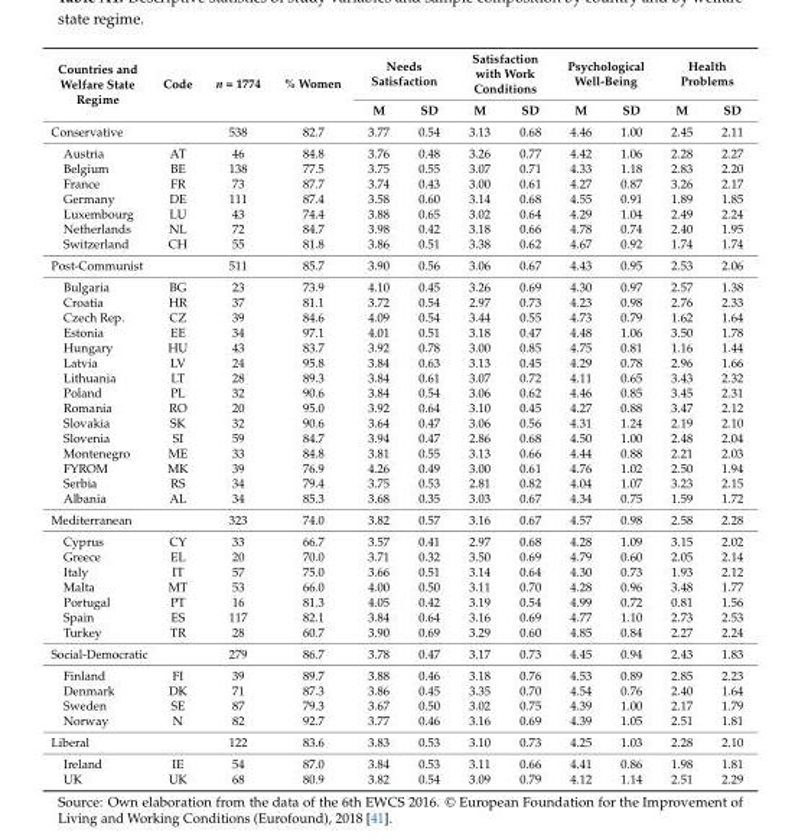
<table><thead><tr><td rowspan="2">Countries and Welfare State Regime</td><td rowspan="2">Code</td><td rowspan="2">n = 1774</td><td rowspan="2">% Women</td><td colspan="2">Needs Satisfaction</td><td colspan="2">Satisfaction with Work Conditions</td><td colspan="2">Psychological Well-Being</td><td colspan="2">Health Problems</td></tr><tr><td>M</td><td>SD</td><td>M</td><td>SD</td><td>M</td><td>SD</td><td>M</td><td>SD</td></tr></thead><tbody><tr><td>Conservative</td><td></td><td>538</td><td>82.7</td><td>3.77</td><td>0.54</td><td>3.13</td><td>0.68</td><td>4.46</td><td>1.00</td><td>2.45</td><td>2.11</td></tr><tr><td>Austria</td><td>AT</td><td>46</td><td>84.8</td><td>3.76</td><td>0.48</td><td>3.26</td><td>0.77</td><td>4.42</td><td>1.06</td><td>2.28</td><td>2.27</td></tr><tr><td>Belgium</td><td>BE</td><td>138</td><td>77.5</td><td>3.75</td><td>0.55</td><td>3.07</td><td>0.71</td><td>4.33</td><td>1.18</td><td>2.83</td><td>2.20</td></tr><tr><td>France</td><td>FR</td><td>73</td><td>87.7</td><td>3.74</td><td>0.43</td><td>3.00</td><td>0.61</td><td>4.27</td><td>0.87</td><td>3.26</td><td>2.17</td></tr><tr><td>Germany</td><td>DE</td><td>111</td><td>87.4</td><td>3.58</td><td>0.60</td><td>3.14</td><td>0.68</td><td>4.55</td><td>0.91</td><td>1.89</td><td>1.85</td></tr><tr><td>Luxembourg</td><td>LU</td><td>43</td><td>74.4</td><td>3.88</td><td>0.65</td><td>3.02</td><td>0.64</td><td>4.29</td><td>1.04</td><td>2.49</td><td>2.24</td></tr><tr><td>Netherlands</td><td>NL</td><td>72</td><td>84.7</td><td>3.98</td><td>0.42</td><td>3.18</td><td>0.66</td><td>4.78</td><td>0.74</td><td>2.40</td><td>1.95</td></tr><tr><td>Switzerland</td><td>CH</td><td>55</td><td>81.8</td><td>3.86</td><td>0.51</td><td>3.38</td><td>0.62</td><td>4.67</td><td>0.92</td><td>1.74</td><td>1.74</td></tr><tr><td>Post-Communist</td><td></td><td>511</td><td>85.7</td><td>3.90</td><td>0.56</td><td>3.06</td><td>0.67</td><td>4.43</td><td>0.95</td><td>2.53</td><td>2.06</td></tr><tr><td>Bulgaria</td><td>BG</td><td>23</td><td>73.9</td><td>4.10</td><td>0.45</td><td>3.26</td><td>0.69</td><td>4.30</td><td>0.97</td><td>2.57</td><td>1.38</td></tr><tr><td>Croatia</td><td>HR</td><td>37</td><td>81.1</td><td>3.72</td><td>0.54</td><td>2.97</td><td>0.73</td><td>4.23</td><td>0.98</td><td>2.76</td><td>2.33</td></tr><tr><td>Czech Rep.</td><td>CZ</td><td>39</td><td>84.6</td><td>4.09</td><td>0.54</td><td>3.44</td><td>0.55</td><td>4.73</td><td>0.79</td><td>1.62</td><td>1.64</td></tr><tr><td>Estonia</td><td>EE</td><td>34</td><td>97.1</td><td>4.01</td><td>0.51</td><td>3.18</td><td>0.47</td><td>4.48</td><td>1.06</td><td>3.50</td><td>1.78</td></tr><tr><td>Hungary</td><td>HU</td><td>43</td><td>83.7</td><td>3.92</td><td>0.78</td><td>3.00</td><td>0.85</td><td>4.75</td><td>0.81</td><td>1.16</td><td>1.44</td></tr><tr><td>Latvia</td><td>LV</td><td>24</td><td>95.8</td><td>3.84</td><td>0.63</td><td>3.13</td><td>0.45</td><td>4.29</td><td>0.78</td><td>2.96</td><td>1.66</td></tr><tr><td>Lithuania</td><td>LT</td><td>28</td><td>89.3</td><td>3.84</td><td>0.61</td><td>3.07</td><td>0.72</td><td>4.11</td><td>0.65</td><td>3.43</td><td>2.32</td></tr><tr><td>Poland</td><td>PL</td><td>32</td><td>90.6</td><td>3.84</td><td>0.54</td><td>3.06</td><td>0.62</td><td>4.46</td><td>0.85</td><td>3.45</td><td>2.31</td></tr><tr><td>Romania</td><td>RO</td><td>20</td><td>95.0</td><td>3.92</td><td>0.64</td><td>3.10</td><td>0.45</td><td>4.27</td><td>0.88</td><td>3.47</td><td>2.12</td></tr><tr><td>Slovakia</td><td>SK</td><td>32</td><td>90.6</td><td>3.64</td><td>0.47</td><td>3.06</td><td>0.56</td><td>4.31</td><td>1.24</td><td>2.19</td><td>2.10</td></tr><tr><td>Slovenia</td><td>SI</td><td>59</td><td>84.7</td><td>3.94</td><td>0.47</td><td>2.86</td><td>0.68</td><td>4.50</td><td>1.00</td><td>2.48</td><td>2.04</td></tr><tr><td>Montenegro</td><td>ME</td><td>33</td><td>84.8</td><td>3.81</td><td>0.55</td><td>3.13</td><td>0.66</td><td>4.44</td><td>0.88</td><td>2.21</td><td>2.03</td></tr><tr><td>FYROM</td><td>MK</td><td>39</td><td>76.9</td><td>4.26</td><td>0.49</td><td>3.00</td><td>0.61</td><td>4.76</td><td>1.02</td><td>2.50</td><td>1.94</td></tr><tr><td>Serbia</td><td>RS</td><td>34</td><td>79.4</td><td>3.75</td><td>0.53</td><td>2.81</td><td>0.82</td><td>4.04</td><td>1.07</td><td>3.23</td><td>2.15</td></tr><tr><td>Albania</td><td>AL</td><td>34</td><td>85.3</td><td>3.68</td><td>0.35</td><td>3.03</td><td>0.67</td><td>4.34</td><td>0.75</td><td>1.59</td><td>1.72</td></tr><tr><td>Mediterranean</td><td></td><td>323</td><td>74.0</td><td>3.82</td><td>0.57</td><td>3.16</td><td>0.67</td><td>4.57</td><td>0.98</td><td>2.58</td><td>2.28</td></tr><tr><td>Cyprus</td><td>CY</td><td>33</td><td>66.7</td><td>3.57</td><td>0.41</td><td>2.97</td><td>0.68</td><td>4.28</td><td>1.09</td><td>3.15</td><td>2.02</td></tr><tr><td>Greece</td><td>EL</td><td>20</td><td>70.0</td><td>3.71</td><td>0.32</td><td>3.50</td><td>0.69</td><td>4.79</td><td>0.60</td><td>2.05</td><td>2.14</td></tr><tr><td>Italy</td><td>IT</td><td>57</td><td>75.0</td><td>3.66</td><td>0.51</td><td>3.14</td><td>0.64</td><td>4.30</td><td>0.73</td><td>1.93</td><td>2.12</td></tr><tr><td>Malta</td><td>MT</td><td>53</td><td>66.0</td><td>4.00</td><td>0.50</td><td>3.11</td><td>0.70</td><td>4.28</td><td>0.96</td><td>3.48</td><td>1.77</td></tr><tr><td>Portugal</td><td>PT</td><td>16</td><td>81.3</td><td>4.05</td><td>0.42</td><td>3.19</td><td>0.54</td><td>4.99</td><td>0.72</td><td>0.81</td><td>1.56</td></tr><tr><td>Spain</td><td>ES</td><td>117</td><td>82.1</td><td>3.84</td><td>0.64</td><td>3.16</td><td>0.69</td><td>4.77</td><td>1.10</td><td>2.73</td><td>2.53</td></tr><tr><td>Turkey</td><td>TR</td><td>28</td><td>60.7</td><td>3.90</td><td>0.69</td><td>3.29</td><td>0.60</td><td>4.85</td><td>0.84</td><td>2.27</td><td>2.24</td></tr><tr><td>Social-Democratic</td><td></td><td>279</td><td>86.7</td><td>3.78</td><td>0.47</td><td>3.17</td><td>0.73</td><td>4.45</td><td>0.94</td><td>2.43</td><td>1.83</td></tr><tr><td>Finland</td><td>FI</td><td>39</td><td>89.7</td><td>3.88</td><td>0.46</td><td>3.18</td><td>0.76</td><td>4.53</td><td>0.89</td><td>2.85</td><td>2.23</td></tr><tr><td>Denmark</td><td>DK</td><td>71</td><td>87.3</td><td>3.86</td><td>0.45</td><td>3.35</td><td>0.70</td><td>4.54</td><td>0.76</td><td>2.40</td><td>1.64</td></tr><tr><td>Sweden</td><td>SE</td><td>87</td><td>79.3</td><td>3.67</td><td>0.50</td><td>3.02</td><td>0.75</td><td>4.39</td><td>1.00</td><td>2.17</td><td>1.79</td></tr><tr><td>Norway</td><td>N</td><td>82</td><td>92.7</td><td>3.77</td><td>0.46</td><td>3.16</td><td>0.69</td><td>4.39</td><td>1.05</td><td>2.51</td><td>1.81</td></tr><tr><td>Liberal</td><td></td><td>122</td><td>83.6</td><td>3.83</td><td>0.53</td><td>3.10</td><td>0.73</td><td>4.25</td><td>1.03</td><td>2.28</td><td>2.10</td></tr><tr><td>Ireland</td><td>IE</td><td>54</td><td>87.0</td><td>3.84</td><td>0.53</td><td>3.11</td><td>0.66</td><td>4.41</td><td>0.86</td><td>1.98</td><td>1.81</td></tr><tr><td>UK</td><td>UK</td><td>68</td><td>80.9</td><td>3.82</td><td>0.54</td><td>3.09</td><td>0.79</td><td>4.12</td><td>1.14</td><td>2.51</td><td>2.29</td></tr></tbody></table>